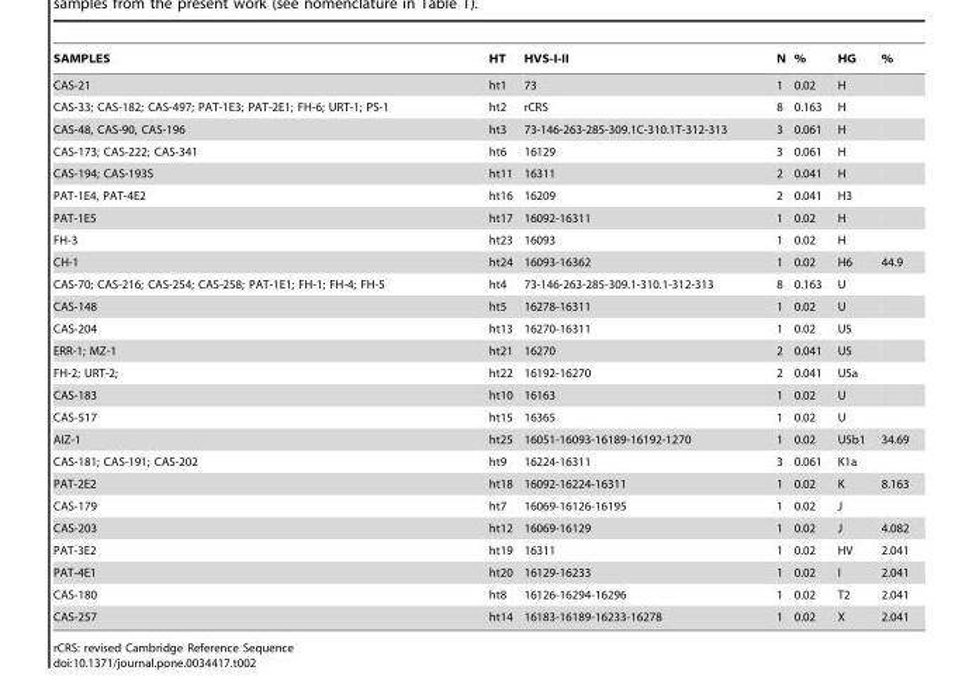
<table><thead><tr><td>SAMPLES</td><td>HT</td><td>HVS-I-II</td><td>N</td><td>%</td><td>HG</td><td>%</td></tr></thead><tbody><tr><td>CAS-21</td><td>ht1</td><td>73</td><td>1</td><td>0.02</td><td>H</td><td></td></tr><tr><td>CAS-33; CAS-182; CAS-497; PAT-1E3; PAT-2E1; FH-6; URT-1; PS-1</td><td>ht2</td><td>rCRS</td><td>8</td><td>0.163</td><td>H</td><td></td></tr><tr><td>CAS-48, CAS-90, CAS-196</td><td>ht3</td><td>73-146-263-285-309.1C-310.1T-312-313</td><td>3</td><td>0.061</td><td>H</td><td></td></tr><tr><td>CAS-173; CAS-222; CAS-341</td><td>ht6</td><td>16129</td><td>3</td><td>0.061</td><td>H</td><td></td></tr><tr><td>CAS-194; CAS-193S</td><td>ht11</td><td>16311</td><td>2</td><td>0.041</td><td>H</td><td></td></tr><tr><td>PAT-1E4, PAT-4E2</td><td>ht16</td><td>16209</td><td>2</td><td>0.041</td><td>H3</td><td></td></tr><tr><td>PAT-1E5</td><td>ht17</td><td>16092-16311</td><td>1</td><td>0.02</td><td>H</td><td></td></tr><tr><td>FH-3</td><td>ht23</td><td>16093</td><td>1</td><td>0.02</td><td>H</td><td></td></tr><tr><td>CH-1</td><td>ht24</td><td>16093-16362</td><td>1</td><td>0.02</td><td>H6</td><td>44.9</td></tr><tr><td>CAS-70; CAS-216; CAS-254; CAS-258; PAT-1E1; FH-1; FH-4; FH-5</td><td>ht4</td><td>73-146-263-285-309.1-310.1-312-313</td><td>8</td><td>0.163</td><td>U</td><td></td></tr><tr><td>CAS-148</td><td>ht5</td><td>16278-16311</td><td>1</td><td>0.02</td><td>U</td><td></td></tr><tr><td>CAS-204</td><td>ht13</td><td>16270-16311</td><td>1</td><td>0.02</td><td>U5</td><td></td></tr><tr><td>ERR-1; MZ-1</td><td>ht21</td><td>16270</td><td>2</td><td>0.041</td><td>U5</td><td></td></tr><tr><td>FH-2; URT-2;</td><td>ht22</td><td>16192-16270</td><td>2</td><td>0.041</td><td>U5a</td><td></td></tr><tr><td>CAS-183</td><td>ht10</td><td>16163</td><td>1</td><td>0.02</td><td>U</td><td></td></tr><tr><td>CAS-517</td><td>ht15</td><td>16365</td><td>1</td><td>0.02</td><td>U</td><td></td></tr><tr><td>AIZ-1</td><td>ht25</td><td>16051-16093-16189-16192-1270</td><td>1</td><td>0.02</td><td>U5b1</td><td>34.69</td></tr><tr><td>CAS-181; CAS-191; CAS-202</td><td>ht9</td><td>16224-16311</td><td>3</td><td>0.061</td><td>K1a</td><td></td></tr><tr><td>PAT-2E2</td><td>ht18</td><td>16092-16224-16311</td><td>1</td><td>0.02</td><td>K</td><td>8.163</td></tr><tr><td>CAS-179</td><td>ht7</td><td>16069-16126-16195</td><td>1</td><td>0.02</td><td>J</td><td></td></tr><tr><td>CAS-203</td><td>ht12</td><td>16069-16129</td><td>1</td><td>0.02</td><td>J</td><td>4.082</td></tr><tr><td>PAT-3E2</td><td>ht19</td><td>16311</td><td>1</td><td>0.02</td><td>HV</td><td>2.041</td></tr><tr><td>PAT-4E1</td><td>ht20</td><td>16129-16233</td><td>1</td><td>0.02</td><td>I</td><td>2.041</td></tr><tr><td>CAS-180</td><td>ht8</td><td>16126-16294-16296</td><td>1</td><td>0.02</td><td>T2</td><td>2.041</td></tr><tr><td>CAS-257</td><td>ht14</td><td>16183-16189-16233-16278</td><td>1</td><td>0.02</td><td>X</td><td>2.041</td></tr></tbody></table>